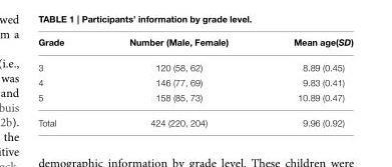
<table><thead><tr><td>Grade</td><td>Number (Male, Female)</td><td>Mean age(SD)</td></tr></thead><tbody><tr><td>3</td><td>120 (58, 62)</td><td>8.89 (0.45)</td></tr><tr><td>4</td><td>146 (77, 69)</td><td>9.83 (0.41)</td></tr><tr><td>5</td><td>158 (85, 73)</td><td>10.89 (0.47)</td></tr><tr><td>Total</td><td>424 (220, 204)</td><td>9.96 (0.92)</td></tr></tbody></table>